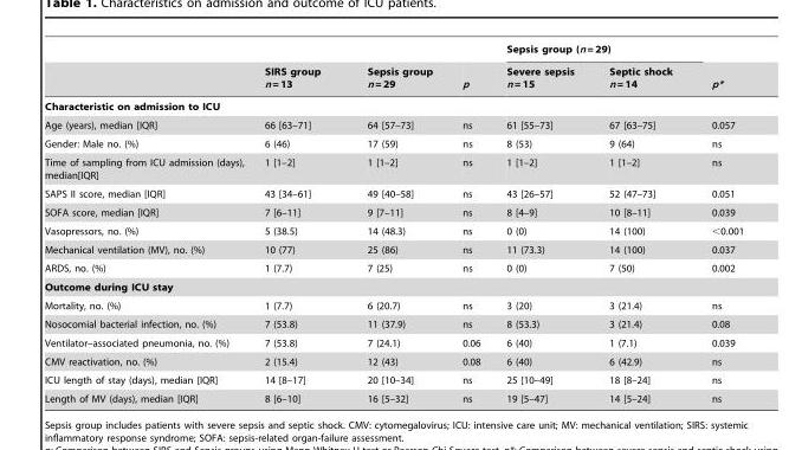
<table><thead><tr><td rowspan="2"></td><td rowspan="2">SIRS group n = 13</td><td rowspan="2">Sepsis group n = 29</td><td rowspan="2">p</td><td colspan="2">Sepsis group (n = 29)</td><td rowspan="2">p*</td></tr><tr><td>Severe sepsis n = 15</td><td>Septic shock n = 14</td></tr></thead><tbody><tr><td colspan="7">Characteristic on admission to ICU</td></tr><tr><td>Age (years), median [IQR]</td><td>66 [63–71]</td><td>64 [57–73]</td><td>ns</td><td>61 [55–73]</td><td>67 [63–75]</td><td>0.057</td></tr><tr><td>Gender: Male no. (%)</td><td>6 (46)</td><td>17 (59)</td><td>ns</td><td>8 (53)</td><td>9 (64)</td><td>ns</td></tr><tr><td>Time of sampling from ICU admission (days), median[IQR]</td><td>1 [1–2]</td><td>1 [1–2]</td><td>ns</td><td>1 [1–2]</td><td>1 [1–2]</td><td>ns</td></tr><tr><td>SAPS II score, median [IQR]</td><td>43 [34–61]</td><td>49 [40–58]</td><td>ns</td><td>43 [26–57]</td><td>52 (47–73]</td><td>0.051</td></tr><tr><td>SOFA score, median [IQR]</td><td>7 [6–11]</td><td>9 [7–11]</td><td>ns</td><td>8 [4–9]</td><td>10 [8–11]</td><td>0.039</td></tr><tr><td>Vasopressors, no. (%)</td><td>5 (38.5)</td><td>14 (48.3)</td><td>ns</td><td>0 (0)</td><td>14 (100)</td><td>&lt;0.001</td></tr><tr><td>Mechanical ventilation (MV), no. (%)</td><td>10 (77)</td><td>25 (86)</td><td>ns</td><td>11 (73.3)</td><td>14 (100)</td><td>0.037</td></tr><tr><td>ARDS, no. (%)</td><td>1 (7.7)</td><td>7 (25)</td><td>ns</td><td>0 (0)</td><td>7 (50)</td><td>0.002</td></tr><tr><td colspan="7">Outcome during ICU stay</td></tr><tr><td>Mortality, no. (%)</td><td>1 (7.7)</td><td>6 (20.7)</td><td>ns</td><td>3 (20)</td><td>3 (21.4)</td><td>ns</td></tr><tr><td>Nosocomial bacterial infection, no. (%)</td><td>7 (53.8)</td><td>11 (37.9)</td><td>ns</td><td>8 (53.3)</td><td>3 (21.4)</td><td>0.08</td></tr><tr><td>Ventilator–associated pneumonia, no. (%)</td><td>7 (53.8)</td><td>7 (24.1)</td><td>0.06</td><td>6 (40)</td><td>1 (7.1)</td><td>0.039</td></tr><tr><td>CMV reactivation, no. (%)</td><td>2 (15.4)</td><td>12 (43)</td><td>0.08</td><td>6 (40)</td><td>6 (42.9)</td><td>ns</td></tr><tr><td>ICU length of stay (days), median [IQR]</td><td>14 [8–17]</td><td>20 [10–34]</td><td>ns</td><td>25 [10–49]</td><td>18 [8–24]</td><td>ns</td></tr><tr><td>Length of MV (days), median [IQR]</td><td>8 [6–10]</td><td>16 [5–32]</td><td>ns</td><td>19 [5–47]</td><td>14 [5–24]</td><td>ns</td></tr></tbody></table>